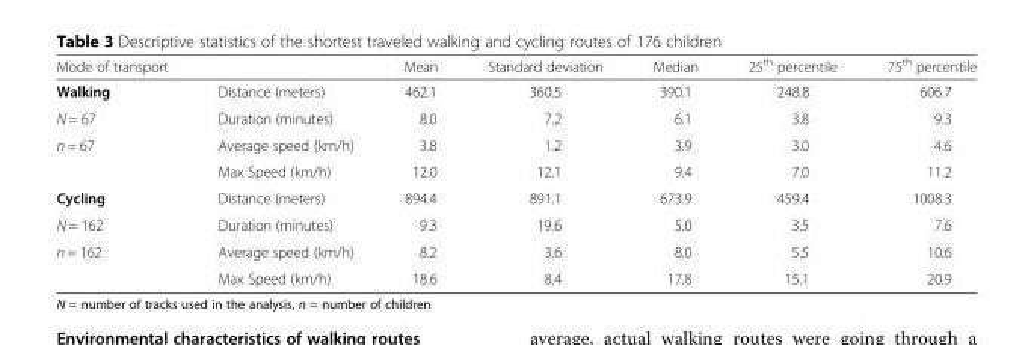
<table><thead><tr><td>Mode of transport</td><td></td><td>Mean</td><td>Standard deviation</td><td>Median</td><td>25<sup>th</sup> percentile</td><td>75<sup>th</sup> percentile</td></tr></thead><tbody><tr><td>Walking</td><td>Distance (meters)</td><td>462.1</td><td>360.5</td><td>390.1</td><td>248.8</td><td>606.7</td></tr><tr><td>N = 67</td><td>Duration (minutes)</td><td>8.0</td><td>7.2</td><td>6.1</td><td>3.8</td><td>9.3</td></tr><tr><td rowspan="2">n = 67</td><td>Average speed (km/h)</td><td>3.8</td><td>1.2</td><td>3.9</td><td>3.0</td><td>4.6</td></tr><tr><td>Max Speed (km/h)</td><td>12.0</td><td>12.1</td><td>9.4</td><td>7.0</td><td>11.2</td></tr><tr><td>Cycling</td><td>Distance (meters)</td><td>894.4</td><td>891.1</td><td>673.9</td><td>459.4</td><td>1008.3</td></tr><tr><td>N = 162</td><td>Duration (minutes)</td><td>9.3</td><td>19.6</td><td>5.0</td><td>3.5</td><td>7.6</td></tr><tr><td rowspan="2">n = 162</td><td>Average speed (km/h)</td><td>8.2</td><td>3.6</td><td>8.0</td><td>5.5</td><td>10.6</td></tr><tr><td>Max Speed (km/h)</td><td>18.6</td><td>8.4</td><td>17.8</td><td>15.1</td><td>20.9</td></tr></tbody></table>